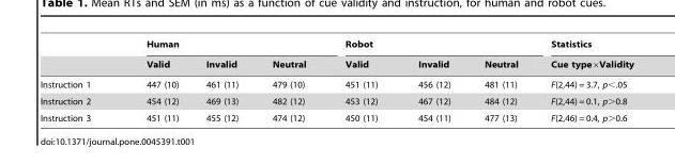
<table><thead><tr><td rowspan="2"></td><td colspan="3">Human</td><td colspan="3">Robot</td><td rowspan="2">Statistics Cue type×Validity</td></tr><tr><td>Valid</td><td>Invalid</td><td>Neutral</td><td>Valid</td><td>Invalid</td><td>Neutral</td></tr></thead><tbody><tr><td>Instruction 1</td><td>447 (10)</td><td>461 (11)</td><td>479 (10)</td><td>451 (11)</td><td>456 (12)</td><td>481 (11)</td><td>F(2,44) = 3.7, p&lt;.05</td></tr><tr><td>Instruction 2</td><td>454 (12)</td><td>469 (13)</td><td>482 (12)</td><td>453 (12)</td><td>467 (12)</td><td>484 (12)</td><td>F(2,44) = 0.1, p&gt;0.8</td></tr><tr><td>Instruction 3</td><td>451 (11)</td><td>455 (12)</td><td>474 (12)</td><td>450 (11)</td><td>454 (11)</td><td>477 (13)</td><td>F(2,46) = 0.4, p&gt;0.6</td></tr></tbody></table>